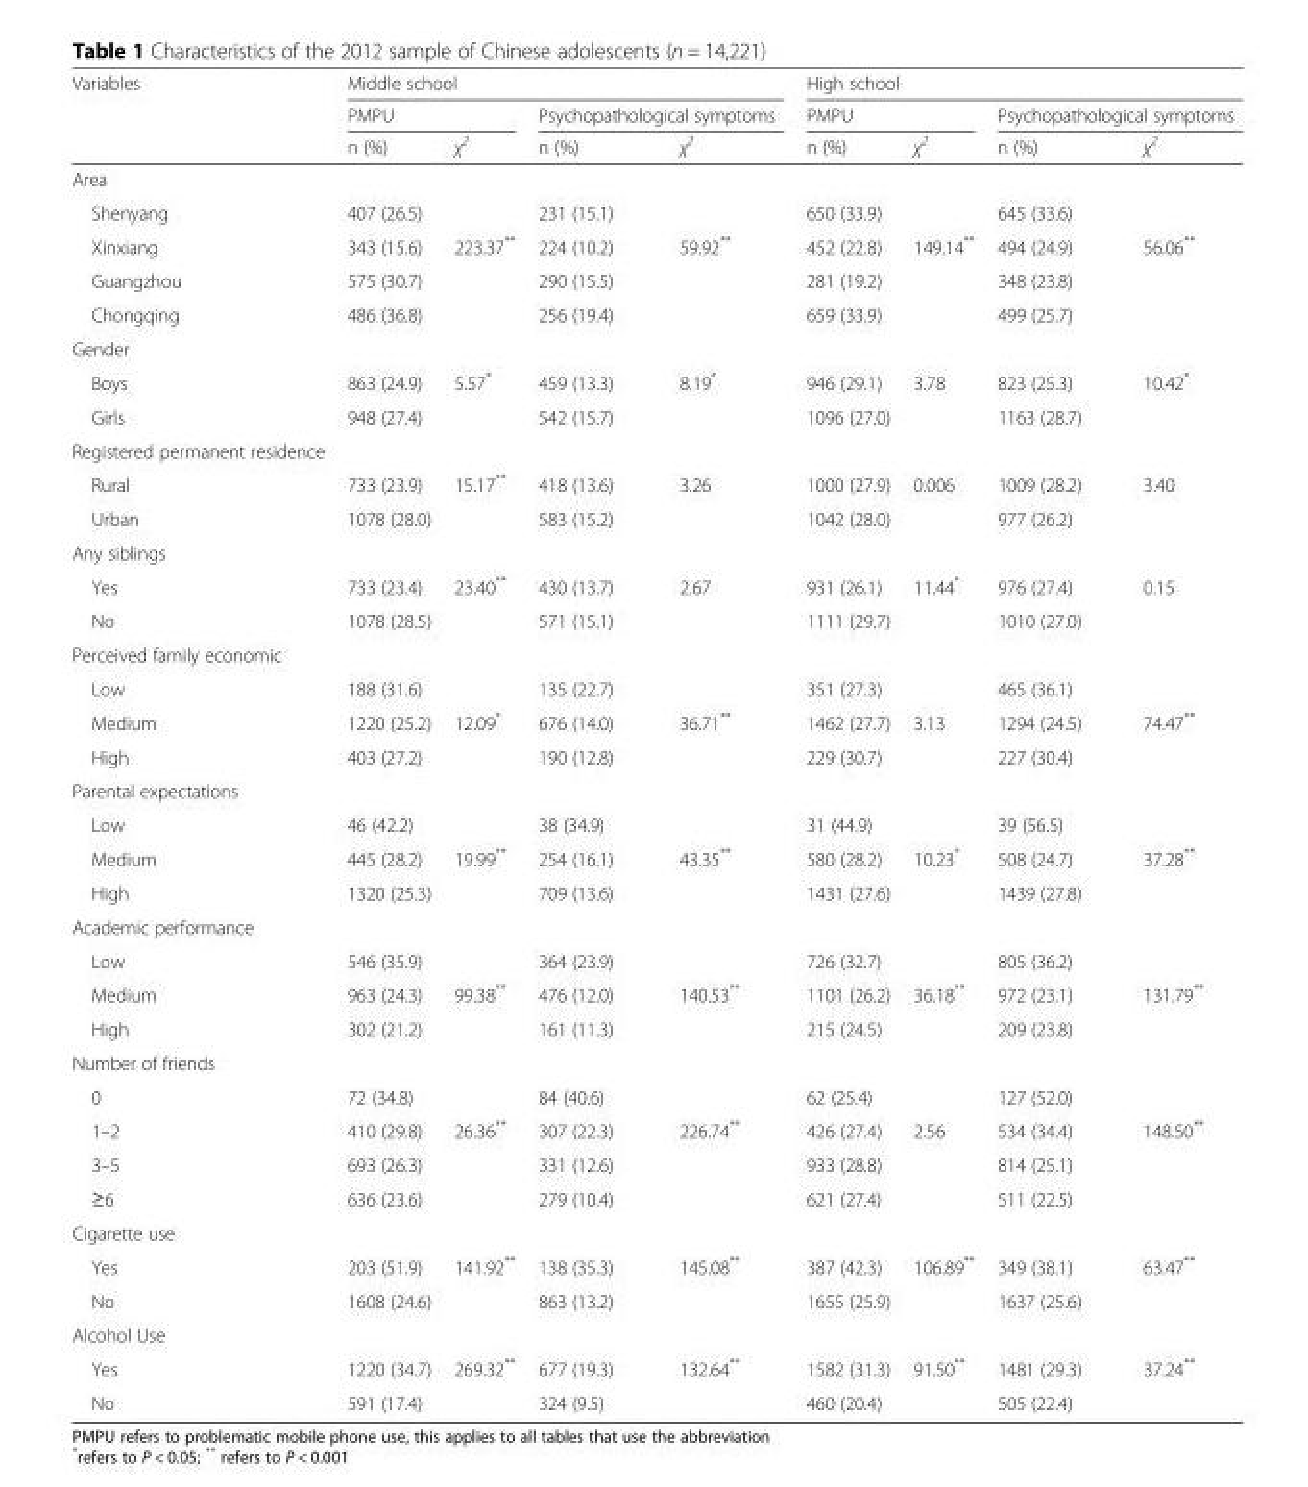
<table><thead><tr><td rowspan="3">Variables</td><td colspan="4">Middle school</td><td colspan="4">High school</td></tr><tr><td colspan="2">PMPU</td><td colspan="2">Psychopathological symptoms</td><td colspan="2">PMPU</td><td colspan="2">Psychopathological symptoms</td></tr><tr><td>n (%)</td><td>χ<sup>2</sup></td><td>n (%)</td><td>χ<sup>2</sup></td><td>n (%)</td><td>χ<sup>2</sup></td><td>n (%)</td><td>χ<sup>2</sup></td></tr></thead><tbody><tr><td colspan="9">Area</td></tr><tr><td>Shenyang</td><td>407 (26.5)</td><td></td><td>231 (15.1)</td><td></td><td>650 (33.9)</td><td></td><td>645 (33.6)</td><td></td></tr><tr><td>Xinxiang</td><td>343 (15.6)</td><td>223.37**</td><td>224 (10.2)</td><td>59.92**</td><td>452 (22.8)</td><td>149.14**</td><td>494 (24.9)</td><td>56.06**</td></tr><tr><td>Guangzhou</td><td>575 (30.7)</td><td></td><td>290 (15.5)</td><td></td><td>281 (19.2)</td><td></td><td>348 (23.8)</td><td></td></tr><tr><td>Chongqing</td><td>486 (36.8)</td><td></td><td>256 (19.4)</td><td></td><td>659 (33.9)</td><td></td><td>499 (25.7)</td><td></td></tr><tr><td colspan="9">Gender</td></tr><tr><td>Boys</td><td>863 (24.9)</td><td>5.57*</td><td>459 (13.3)</td><td>8.19*</td><td>946 (29.1)</td><td>3.78</td><td>823 (25.3)</td><td>10.42*</td></tr><tr><td>Girls</td><td>948 (27.4)</td><td></td><td>542 (15.7)</td><td></td><td>1096 (27.0)</td><td></td><td>1163 (28.7)</td><td></td></tr><tr><td colspan="9">Registered permanent residence</td></tr><tr><td>Rural</td><td>733 (23.9)</td><td>15.17**</td><td>418 (13.6)</td><td>3.26</td><td>1000 (27.9)</td><td>0.006</td><td>1009 (28.2)</td><td>3.40</td></tr><tr><td>Urban</td><td>1078 (28.0)</td><td></td><td>583 (15.2)</td><td></td><td>1042 (28.0)</td><td></td><td>977 (26.2)</td><td></td></tr><tr><td colspan="9">Any siblings</td></tr><tr><td>Yes</td><td>733 (23.4)</td><td>23.40**</td><td>430 (13.7)</td><td>2.67</td><td>931 (26.1)</td><td>11.44*</td><td>976 (27.4)</td><td>0.15</td></tr><tr><td>No</td><td>1078 (28.5)</td><td></td><td>571 (15.1)</td><td></td><td>1111 (29.7)</td><td></td><td>1010 (27.0)</td><td></td></tr><tr><td colspan="9">Perceived family economic</td></tr><tr><td>Low</td><td>188 (31.6)</td><td></td><td>135 (22.7)</td><td></td><td>351 (27.3)</td><td></td><td>465 (36.1)</td><td></td></tr><tr><td>Medium</td><td>1220 (25.2)</td><td>12.09*</td><td>676 (14.0)</td><td>36.71**</td><td>1462 (27.7)</td><td>3.13</td><td>1294 (24.5)</td><td>74.47**</td></tr><tr><td>High</td><td>403 (27.2)</td><td></td><td>190 (12.8)</td><td></td><td>229 (30.7)</td><td></td><td>227 (30.4)</td><td></td></tr><tr><td colspan="9">Parental expectations</td></tr><tr><td>Low</td><td>46 (42.2)</td><td></td><td>38 (34.9)</td><td></td><td>31 (44.9)</td><td></td><td>39 (56.5)</td><td></td></tr><tr><td>Medium</td><td>445 (28.2)</td><td>19.99**</td><td>254 (16.1)</td><td>43.35**</td><td>580 (28.2)</td><td>10.23*</td><td>508 (24.7)</td><td>37.28**</td></tr><tr><td>High</td><td>1320 (25.3)</td><td></td><td>709 (13.6)</td><td></td><td>1431 (27.6)</td><td></td><td>1439 (27.8)</td><td></td></tr><tr><td colspan="9">Academic performance</td></tr><tr><td>Low</td><td>546 (35.9)</td><td></td><td>364 (23.9)</td><td></td><td>726 (32.7)</td><td></td><td>805 (36.2)</td><td></td></tr><tr><td>Medium</td><td>963 (24.3)</td><td>99.38**</td><td>476 (12.0)</td><td>140.53**</td><td>1101 (26.2)</td><td>36.18**</td><td>972 (23.1)</td><td>131.79**</td></tr><tr><td>High</td><td>302 (21.2)</td><td></td><td>161 (11.3)</td><td></td><td>215 (24.5)</td><td></td><td>209 (23.8)</td><td></td></tr><tr><td colspan="9">Number of friends</td></tr><tr><td>0</td><td>72 (34.8)</td><td></td><td>84 (40.6)</td><td></td><td>62 (25.4)</td><td></td><td>127 (52.0)</td><td></td></tr><tr><td>1–2</td><td>410 (29.8)</td><td>26.36**</td><td>307 (22.3)</td><td>226.74**</td><td>426 (27.4)</td><td>2.56</td><td>534 (34.4)</td><td>148.50**</td></tr><tr><td>3–5</td><td>693 (26.3)</td><td></td><td>331 (12.6)</td><td></td><td>933 (28.8)</td><td></td><td>814 (25.1)</td><td></td></tr><tr><td>≥6</td><td>636 (23.6)</td><td></td><td>279 (10.4)</td><td></td><td>621 (27.4)</td><td></td><td>511 (22.5)</td><td></td></tr><tr><td colspan="9">Cigarette use</td></tr><tr><td>Yes</td><td>203 (51.9)</td><td>141.92**</td><td>138 (35.3)</td><td>145.08**</td><td>387 (42.3)</td><td>106.89**</td><td>349 (38.1)</td><td>63.47**</td></tr><tr><td>No</td><td>1608 (24.6)</td><td></td><td>863 (13.2)</td><td></td><td>1655 (25.9)</td><td></td><td>1637 (25.6)</td><td></td></tr><tr><td colspan="9">Alcohol Use</td></tr><tr><td>Yes</td><td>1220 (34.7)</td><td>269.32**</td><td>677 (19.3)</td><td>132.64**</td><td>1582 (31.3)</td><td>91.50**</td><td>1481 (29.3)</td><td>37.24**</td></tr><tr><td>No</td><td>591 (17.4)</td><td></td><td>324 (9.5)</td><td></td><td>460 (20.4)</td><td></td><td>505 (22.4)</td><td></td></tr></tbody></table>